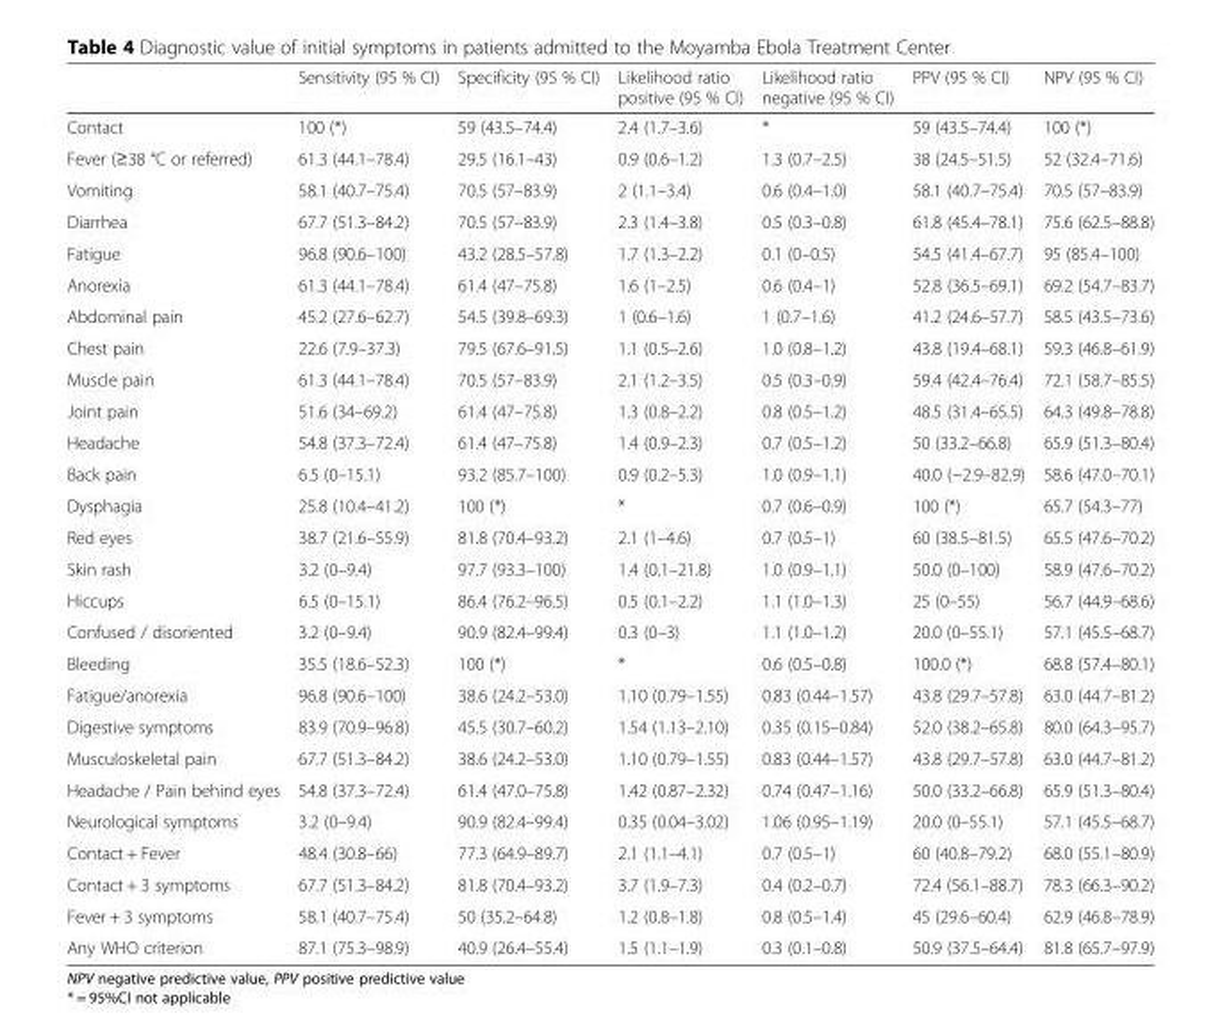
<table><thead><tr><td></td><td>Sensitivity (95 % CI)</td><td>Specificity (95 % CI)</td><td>Likelihood ratio positive (95 % CI)</td><td>Likelihood ratio negative (95 % CI)</td><td>PPV (95 % CI)</td><td>NPV (95 % CI)</td></tr></thead><tbody><tr><td>Contact</td><td>100 (*)</td><td>59 (43.5–74.4)</td><td>2.4 (1.7–3.6)</td><td>*</td><td>59 (43.5–74.4)</td><td>100 (*)</td></tr><tr><td>Fever (≥38 °C or referred)</td><td>61.3 (44.1–78.4)</td><td>29.5 (16.1–43)</td><td>0.9 (0.6–1.2)</td><td>1.3 (0.7–2.5)</td><td>38 (24.5–51.5)</td><td>52 (32.4–71.6)</td></tr><tr><td>Vomiting</td><td>58.1 (40.7–75.4)</td><td>70.5 (57–83.9)</td><td>2 (1.1–3.4)</td><td>0.6 (0.4–1.0)</td><td>58.1 (40.7–75.4)</td><td>70.5 (57–83.9)</td></tr><tr><td>Diarrhea</td><td>67.7 (51.3–84.2)</td><td>70.5 (57–83.9)</td><td>2.3 (1.4–3.8)</td><td>0.5 (0.3–0.8)</td><td>61.8 (45.4–78.1)</td><td>75.6 (62.5–88.8)</td></tr><tr><td>Fatigue</td><td>96.8 (90.6–100)</td><td>43.2 (28.5–57.8)</td><td>1.7 (1.3–2.2)</td><td>0.1 (0–0.5)</td><td>54.5 (41.4–67.7)</td><td>95 (85.4–100)</td></tr><tr><td>Anorexia</td><td>61.3 (44.1–78.4)</td><td>61.4 (47–75.8)</td><td>1.6 (1–2.5)</td><td>0.6 (0.4–1)</td><td>52.8 (36.5–69.1)</td><td>69.2 (54.7–83.7)</td></tr><tr><td>Abdominal pain</td><td>45.2 (27.6–62.7)</td><td>54.5 (39.8–69.3)</td><td>1 (0.6–1.6)</td><td>1 (0.7–1.6)</td><td>41.2 (24.6–57.7)</td><td>58.5 (43.5–73.6)</td></tr><tr><td>Chest pain</td><td>22.6 (7.9–37.3)</td><td>79.5 (67.6–91.5)</td><td>1.1 (0.5–2.6)</td><td>1.0 (0.8–1.2)</td><td>43.8 (19.4–68.1)</td><td>59.3 (46.8–61.9)</td></tr><tr><td>Muscle pain</td><td>61.3 (44.1–78.4)</td><td>70.5 (57–83.9)</td><td>2.1 (1.2–3.5)</td><td>0.5 (0.3–0.9)</td><td>59.4 (42.4–76.4)</td><td>72.1 (58.7–85.5)</td></tr><tr><td>Joint pain</td><td>51.6 (34–69.2)</td><td>61.4 (47–75.8)</td><td>1.3 (0.8–2.2)</td><td>0.8 (0.5–1.2)</td><td>48.5 (31.4–65.5)</td><td>64.3 (49.8–78.8)</td></tr><tr><td>Headache</td><td>54.8 (37.3–72.4)</td><td>61.4 (47–75.8)</td><td>1.4 (0.9–2.3)</td><td>0.7 (0.5–1.2)</td><td>50 (33.2–66.8)</td><td>65.9 (51.3–80.4)</td></tr><tr><td>Back pain</td><td>6.5 (0–15.1)</td><td>93.2 (85.7–100)</td><td>0.9 (0.2–5.3)</td><td>1.0 (0.9–1.1)</td><td>40.0 (−2.9–82.9)</td><td>58.6 (47.0–70.1)</td></tr><tr><td>Dysphagia</td><td>25.8 (10.4–41.2)</td><td>100 (*)</td><td>*</td><td>0.7 (0.6–0.9)</td><td>100 (*)</td><td>65.7 (54.3–77)</td></tr><tr><td>Red eyes</td><td>38.7 (21.6–55.9)</td><td>81.8 (70.4–93.2)</td><td>2.1 (1–4.6)</td><td>0.7 (0.5–1)</td><td>60 (38.5–81.5)</td><td>65.5 (47.6–70.2)</td></tr><tr><td>Skin rash</td><td>3.2 (0–9.4)</td><td>97.7 (93.3–100)</td><td>1.4 (0.1–21.8)</td><td>1.0 (0.9–1.1)</td><td>50.0 (0–100)</td><td>58.9 (47.6–70.2)</td></tr><tr><td>Hiccups</td><td>6.5 (0–15.1)</td><td>86.4 (76.2–96.5)</td><td>0.5 (0.1–2.2)</td><td>1.1 (1.0–1.3)</td><td>25 (0–55)</td><td>56.7 (44.9–68.6)</td></tr><tr><td>Confused / disoriented</td><td>3.2 (0–9.4)</td><td>90.9 (82.4–99.4)</td><td>0.3 (0–3)</td><td>1.1 (1.0–1.2)</td><td>20.0 (0–55.1)</td><td>57.1 (45.5–68.7)</td></tr><tr><td>Bleeding</td><td>35.5 (18.6–52.3)</td><td>100 (*)</td><td>*</td><td>0.6 (0.5–0.8)</td><td>100.0 (*)</td><td>68.8 (57.4–80.1)</td></tr><tr><td>Fatigue/anorexia</td><td>96.8 (90.6–100)</td><td>38.6 (24.2–53.0)</td><td>1.10 (0.79–1.55)</td><td>0.83 (0.44–1.57)</td><td>43.8 (29.7–57.8)</td><td>63.0 (44.7–81.2)</td></tr><tr><td>Digestive symptoms</td><td>83.9 (70.9–96.8)</td><td>45.5 (30.7–60.2)</td><td>1.54 (1.13–2.10)</td><td>0.35 (0.15–0.84)</td><td>52.0 (38.2–65.8)</td><td>80.0 (64.3–95.7)</td></tr><tr><td>Musculoskeletal pain</td><td>67.7 (51.3–84.2)</td><td>38.6 (24.2–53.0)</td><td>1.10 (0.79–1.55)</td><td>0.83 (0.44–1.57)</td><td>43.8 (29.7–57.8)</td><td>63.0 (44.7–81.2)</td></tr><tr><td>Headache / Pain behind eyes</td><td>54.8 (37.3–72.4)</td><td>61.4 (47.0–75.8)</td><td>1.42 (0.87–2.32)</td><td>0.74 (0.47–1.16)</td><td>50.0 (33.2–66.8)</td><td>65.9 (51.3–80.4)</td></tr><tr><td>Neurological symptoms</td><td>3.2 (0–9.4)</td><td>90.9 (82.4–99.4)</td><td>0.35 (0.04–3.02)</td><td>1.06 (0.95–1.19)</td><td>20.0 (0–55.1)</td><td>57.1 (45.5–68.7)</td></tr><tr><td>Contact + Fever</td><td>48.4 (30.8–66)</td><td>77.3 (64.9–89.7)</td><td>2.1 (1.1–4.1)</td><td>0.7 (0.5–1)</td><td>60 (40.8–79.2)</td><td>68.0 (55.1–80.9)</td></tr><tr><td>Contact + 3 symptoms</td><td>67.7 (51.3–84.2)</td><td>81.8 (70.4–93.2)</td><td>3.7 (1.9–7.3)</td><td>0.4 (0.2–0.7)</td><td>72.4 (56.1–88.7)</td><td>78.3 (66.3–90.2)</td></tr><tr><td>Fever + 3 symptoms</td><td>58.1 (40.7–75.4)</td><td>50 (35.2–64.8)</td><td>1.2 (0.8–1.8)</td><td>0.8 (0.5–1.4)</td><td>45 (29.6–60.4)</td><td>62.9 (46.8–78.9)</td></tr><tr><td>Any WHO criterion</td><td>87.1 (75.3–98.9)</td><td>40.9 (26.4–55.4)</td><td>1.5 (1.1–1.9)</td><td>0.3 (0.1–0.8)</td><td>50.9 (37.5–64.4)</td><td>81.8 (65.7–97.9)</td></tr></tbody></table>